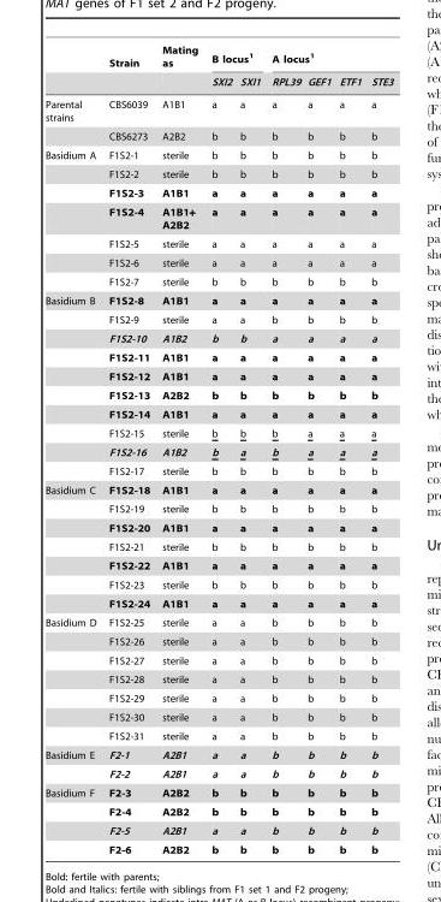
<table><thead><tr><td rowspan="2"></td><td rowspan="2">Strain</td><td rowspan="2">Mating as</td><td colspan="2">B locus<sup>1</sup></td><td colspan="4">A locus<sup>1</sup></td></tr><tr><td>SXI2</td><td>SXI1</td><td>RPL39</td><td>GEF1</td><td>ETF1</td><td>STE3</td></tr></thead><tbody><tr><td rowspan="2">Parental strains</td><td>CBS6039</td><td>A1B1</td><td>a</td><td>a</td><td>a</td><td>a</td><td>a</td><td>a</td></tr><tr><td>CBS6273</td><td>A2B2</td><td>b</td><td>b</td><td>b</td><td>b</td><td>b</td><td>b</td></tr><tr><td rowspan="7">Basidium A</td><td>F1S2-1</td><td>sterile</td><td>b</td><td>b</td><td>b</td><td>b</td><td>b</td><td>b</td></tr><tr><td>F1S2-2</td><td>sterile</td><td>b</td><td>b</td><td>b</td><td>b</td><td>b</td><td>b</td></tr><tr><td>F1S2-3</td><td>A1B1</td><td>a</td><td>a</td><td>a</td><td>a</td><td>a</td><td>a</td></tr><tr><td>F1S2-4</td><td>A1B1+ A2B2</td><td>a</td><td>a</td><td>a</td><td>a</td><td>a</td><td>a</td></tr><tr><td>F1S2-5</td><td>sterile</td><td>a</td><td>a</td><td>a</td><td>a</td><td>a</td><td>a</td></tr><tr><td>F1S2-6</td><td>sterile</td><td>a</td><td>a</td><td>a</td><td>a</td><td>a</td><td>a</td></tr><tr><td>F1S2-7</td><td>sterile</td><td>b</td><td>b</td><td>b</td><td>b</td><td>b</td><td>b</td></tr><tr><td rowspan="10">Basidium B</td><td>F1S2-8</td><td>A1B1</td><td>a</td><td>a</td><td>a</td><td>a</td><td>a</td><td>a</td></tr><tr><td>F1S2-9</td><td>sterile</td><td>a</td><td>a</td><td>b</td><td>b</td><td>b</td><td>b</td></tr><tr><td>F1S2-10</td><td>A1B2</td><td>b</td><td>b</td><td>a</td><td>a</td><td>a</td><td>a</td></tr><tr><td>F1S2-11</td><td>A1B1</td><td>a</td><td>a</td><td>a</td><td>a</td><td>a</td><td>a</td></tr><tr><td>F1S2-12</td><td>A1B1</td><td>a</td><td>a</td><td>a</td><td>a</td><td>a</td><td>a</td></tr><tr><td>F1S2-13</td><td>A2B2</td><td>b</td><td>b</td><td>b</td><td>b</td><td>b</td><td>b</td></tr><tr><td>F1S2-14</td><td>A1B1</td><td>a</td><td>a</td><td>a</td><td>a</td><td>a</td><td>a</td></tr><tr><td>F1S2-15</td><td>sterile</td><td>b</td><td>b</td><td>b</td><td>a</td><td>a</td><td>a</td></tr><tr><td>F1S2-16</td><td>A1B2</td><td>b</td><td>a</td><td>b</td><td>a</td><td>a</td><td>a</td></tr><tr><td>F1S2-17</td><td>sterile</td><td>b</td><td>b</td><td>b</td><td>b</td><td>b</td><td>b</td></tr><tr><td rowspan="7">Basidium C</td><td>F1S2-18</td><td>A1B1</td><td>a</td><td>a</td><td>a</td><td>a</td><td>a</td><td>a</td></tr><tr><td>F1S2-19</td><td>sterile</td><td>b</td><td>b</td><td>b</td><td>b</td><td>b</td><td>b</td></tr><tr><td>F1S2-20</td><td>A1B1</td><td>a</td><td>a</td><td>a</td><td>a</td><td>a</td><td>a</td></tr><tr><td>F1S2-21</td><td>sterile</td><td>b</td><td>b</td><td>b</td><td>b</td><td>b</td><td>b</td></tr><tr><td>F1S2-22</td><td>A1B1</td><td>a</td><td>a</td><td>a</td><td>a</td><td>a</td><td>a</td></tr><tr><td>F1S2-23</td><td>sterile</td><td>b</td><td>b</td><td>b</td><td>b</td><td>b</td><td>b</td></tr><tr><td>F1S2-24</td><td>A1B1</td><td>a</td><td>a</td><td>a</td><td>a</td><td>a</td><td>a</td></tr><tr><td rowspan="7">Basidium D</td><td>F1S2-25</td><td>sterile</td><td>a</td><td>a</td><td>b</td><td>b</td><td>b</td><td>b</td></tr><tr><td>F1S2-26</td><td>sterile</td><td>a</td><td>a</td><td>b</td><td>b</td><td>b</td><td>b</td></tr><tr><td>F1S2-27</td><td>sterile</td><td>a</td><td>a</td><td>b</td><td>b</td><td>b</td><td>b</td></tr><tr><td>F1S2-28</td><td>sterile</td><td>a</td><td>a</td><td>b</td><td>b</td><td>b</td><td>b</td></tr><tr><td>F1S2-29</td><td>sterile</td><td>a</td><td>a</td><td>b</td><td>b</td><td>b</td><td>b</td></tr><tr><td>F1S2-30</td><td>sterile</td><td>a</td><td>a</td><td>b</td><td>b</td><td>b</td><td>b</td></tr><tr><td>F1S2-31</td><td>sterile</td><td>a</td><td>a</td><td>b</td><td>b</td><td>b</td><td>b</td></tr><tr><td rowspan="2">Basidium E</td><td>F2-1</td><td>A2B1</td><td>a</td><td>a</td><td>b</td><td>b</td><td>b</td><td>b</td></tr><tr><td>F2-2</td><td>A2B1</td><td>a</td><td>a</td><td>b</td><td>b</td><td>b</td><td>b</td></tr><tr><td rowspan="4">Basidium F</td><td>F2-3</td><td>A2B2</td><td>b</td><td>b</td><td>b</td><td>b</td><td>b</td><td>b</td></tr><tr><td>F2-4</td><td>A2B2</td><td>b</td><td>b</td><td>b</td><td>b</td><td>b</td><td>b</td></tr><tr><td>F2-5</td><td>A2B1</td><td>a</td><td>a</td><td>b</td><td>b</td><td>b</td><td>b</td></tr><tr><td>F2-6</td><td>A2B2</td><td>b</td><td>b</td><td>b</td><td>b</td><td>b</td><td>b</td></tr></tbody></table>